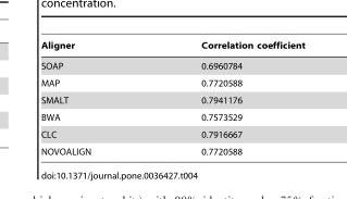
<table><thead><tr><td>Aligner</td><td>Correlation coefficient</td></tr></thead><tbody><tr><td>SOAP</td><td>0.6960784</td></tr><tr><td>MAP</td><td>0.7720588</td></tr><tr><td>SMALT</td><td>0.7941176</td></tr><tr><td>BWA</td><td>0.7573529</td></tr><tr><td>CLC</td><td>0.7916667</td></tr><tr><td>NOVOALIGN</td><td>0.7720588</td></tr></tbody></table>